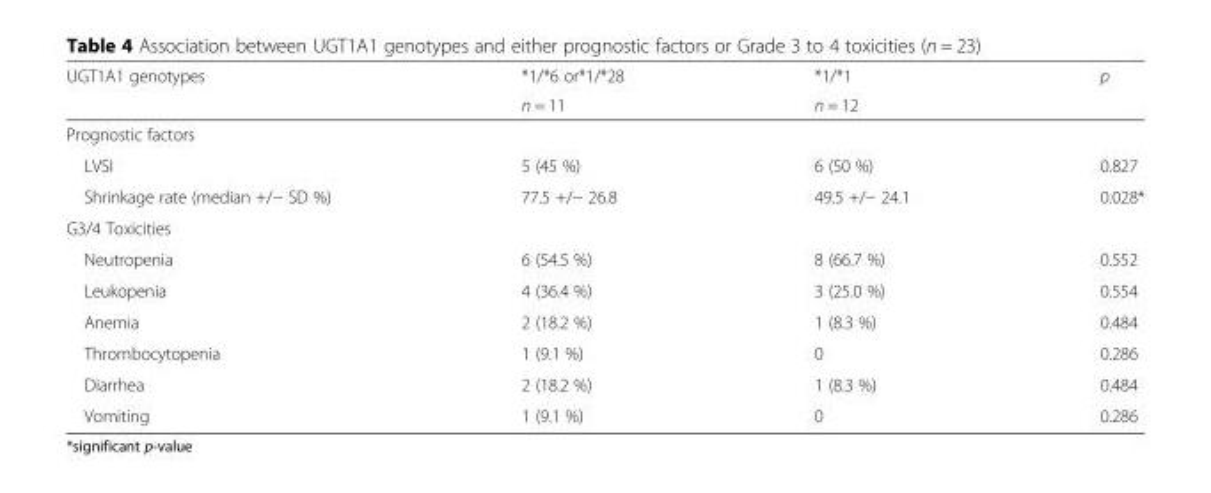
<table><thead><tr><td rowspan="2">UGT1A1 genotypes</td><td rowspan="2">*1/*6 or*1/*28 n = 11</td><td rowspan="2">*1/*1 n = 12</td><td rowspan="2">p</td></tr><tr></tr></thead><tbody><tr><td colspan="4">Prognostic factors</td></tr><tr><td>LVSI</td><td>5 (45 %)</td><td>6 (50 %)</td><td>0.827</td></tr><tr><td>Shrinkage rate (median +/− SD %)</td><td>77.5 +/− 26.8</td><td>49.5 +/− 24.1</td><td>0.028*</td></tr><tr><td colspan="4">G3/4 Toxicities</td></tr><tr><td>Neutropenia</td><td>6 (54.5 %)</td><td>8 (66.7 %)</td><td>0.552</td></tr><tr><td>Leukopenia</td><td>4 (36.4 %)</td><td>3 (25.0 %)</td><td>0.554</td></tr><tr><td>Anemia</td><td>2 (18.2 %)</td><td>1 (8.3 %)</td><td>0.484</td></tr><tr><td>Thrombocytopenia</td><td>1 (9.1 %)</td><td>0</td><td>0.286</td></tr><tr><td>Diarrhea</td><td>2 (18.2 %)</td><td>1 (8.3 %)</td><td>0.484</td></tr><tr><td>Vomiting</td><td>1 (9.1 %)</td><td>0</td><td>0.286</td></tr></tbody></table>